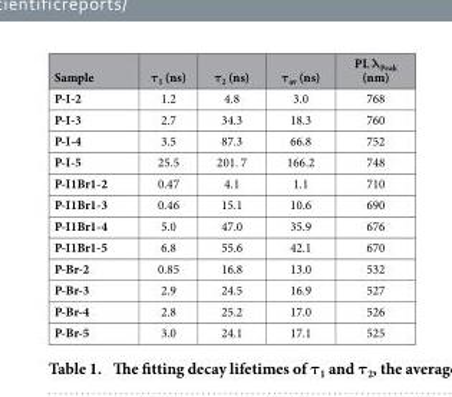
<table><thead><tr><td>Sample</td><td>τ<sub>1</sub> (ns)</td><td>τ<sub>2</sub> (ns)</td><td>τ<sub>av</sub> (ns)</td><td>PL λ<sub>Peak</sub> (nm)</td></tr></thead><tbody><tr><td>P-I-2</td><td>1.2</td><td>4.8</td><td>3.0</td><td>768</td></tr><tr><td>P-I-3</td><td>2.7</td><td>34.3</td><td>18.3</td><td>760</td></tr><tr><td>P-I-4</td><td>3.5</td><td>87.3</td><td>66.8</td><td>752</td></tr><tr><td>P-I-5</td><td>25.5</td><td>201. 7</td><td>166.2</td><td>748</td></tr><tr><td>P-I1Br1-2</td><td>0.47</td><td>4.1</td><td>1.1</td><td>710</td></tr><tr><td>P-I1Br1-3</td><td>0.46</td><td>15.1</td><td>10.6</td><td>690</td></tr><tr><td>P-I1Br1-4</td><td>5.0</td><td>47.0</td><td>35.9</td><td>676</td></tr><tr><td>P-I1Br1-5</td><td>6.8</td><td>55.6</td><td>42.1</td><td>670</td></tr><tr><td>P-Br-2</td><td>0.85</td><td>16.8</td><td>13.0</td><td>532</td></tr><tr><td>P-Br-3</td><td>2.9</td><td>24.5</td><td>16.9</td><td>527</td></tr><tr><td>P-Br-4</td><td>2.8</td><td>25.2</td><td>17.0</td><td>526</td></tr><tr><td>P-Br-5</td><td>3.0</td><td>24.1</td><td>17.1</td><td>525</td></tr></tbody></table>